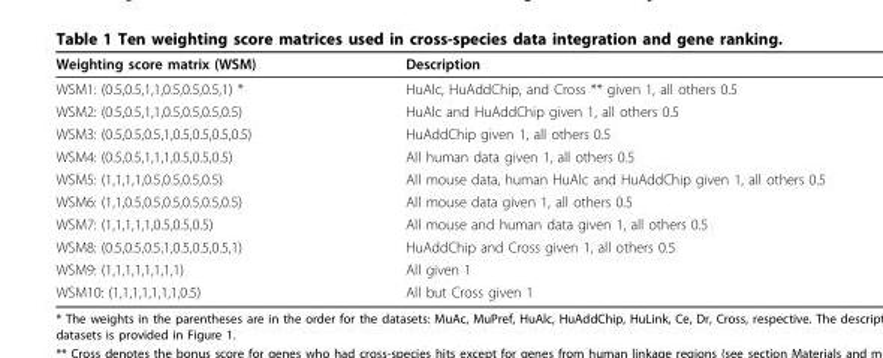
<table><thead><tr><td>Weighting score matrix (WSM)</td><td>Description</td></tr></thead><tbody><tr><td>WSM1: (0.5,0.5,1,1,0.5,0.5,0.5,1) *</td><td>HuAlc, HuAddChip, and Cross ** given 1, all others 0.5</td></tr><tr><td>WSM2: (0.5,0.5,1,1,0.5,0.5,0.5,0.5)</td><td>HuAlc and HuAddChip given 1, all others 0.5</td></tr><tr><td>WSM3: (0.5,0.5,0.5,1,0.5,0.5,0.5,0.5)</td><td>HuAddChip given 1, all others 0.5</td></tr><tr><td>WSM4: (0.5,0.5,1,1,1,0.5,0.5,0.5)</td><td>All human data given 1, all others 0.5</td></tr><tr><td>WSM5: (1,1,1,1,0.5,0.5,0.5,0.5)</td><td>All mouse data, human HuAlc and HuAddChip given 1, all others 0.5</td></tr><tr><td>WSM6: (1,1,0.5,0.5,0.5,0.5,0.5,0.5)</td><td>All mouse data given 1, all others 0.5</td></tr><tr><td>WSM7: (1,1,1,1,1,0.5,0.5,0.5)</td><td>All mouse and human data given 1, all others 0.5</td></tr><tr><td>WSM8: (0.5,0.5,0.5,1,0.5,0.5,0.5,1)</td><td>HuAddChip and Cross given 1, all others 0.5</td></tr><tr><td>WSM9: (1,1,1,1,1,1,1,1)</td><td>All given 1</td></tr><tr><td>WSM10: (1,1,1,1,1,1,1,0.5)</td><td>All but Cross given 1</td></tr></tbody></table>